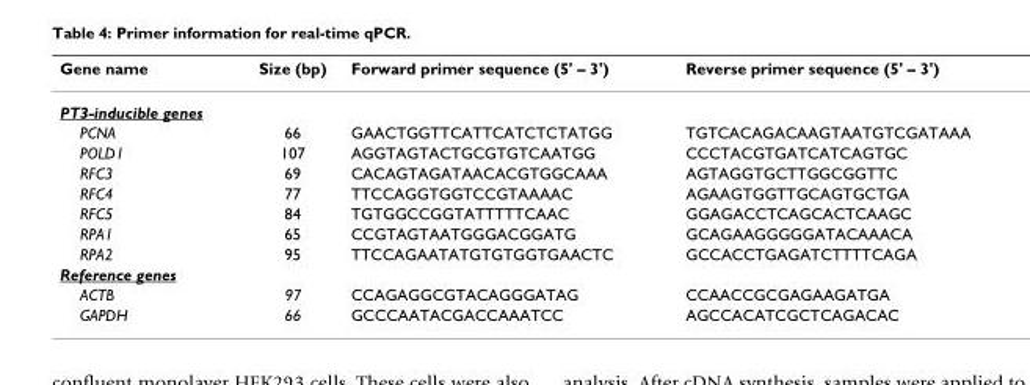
<table><thead><tr><td>Gene name</td><td>Size (bp)</td><td>Forward primer sequence (5&#x27; – 3&#x27;)</td><td>Reverse primer sequence (5&#x27; – 3&#x27;)</td></tr></thead><tbody><tr><td colspan="4">PT3-inducible genes</td></tr><tr><td>PCNA</td><td>66</td><td>GAACTGGTTCATTCATCTCTATGG</td><td>TGTCACAGACAAGTAATGTCGATAAA</td></tr><tr><td>POLD1</td><td>107</td><td>AGGTAGTACTGCGTGTCAATGG</td><td>CCCTACGTGATCATCAGTGC</td></tr><tr><td>RFC3</td><td>69</td><td>CACAGTAGATAACACGTGGCAAA</td><td>AGTAGGTGCTTGGCGGTTC</td></tr><tr><td>RFC4</td><td>77</td><td>TTCCAGGTGGTCCGTAAAAC</td><td>AGAAGTGGTTGCAGTGCTGA</td></tr><tr><td>RFC5</td><td>84</td><td>TGTGGCCGGTATTTTTCAAC</td><td>GGAGACCTCAGCACTCAAGC</td></tr><tr><td>RPA1</td><td>65</td><td>CCGTAGTAATGGGACGGATG</td><td>GCAGAAGGGGGATACAAACA</td></tr><tr><td>RPA2</td><td>95</td><td>TTCCAGAATATGTGTGGTGAACTC</td><td>GCCACCTGAGATCTTTTCAGA</td></tr><tr><td colspan="4">Reference genes</td></tr><tr><td>ACTB</td><td>97</td><td>CCAGAGGCGTACAGGGATAG</td><td>CCAACCGCGAGAAGATGA</td></tr><tr><td>GAPDH</td><td>66</td><td>GCCCAATACGACCAAATCC</td><td>AGCCACATCGCTCAGACAC</td></tr></tbody></table>